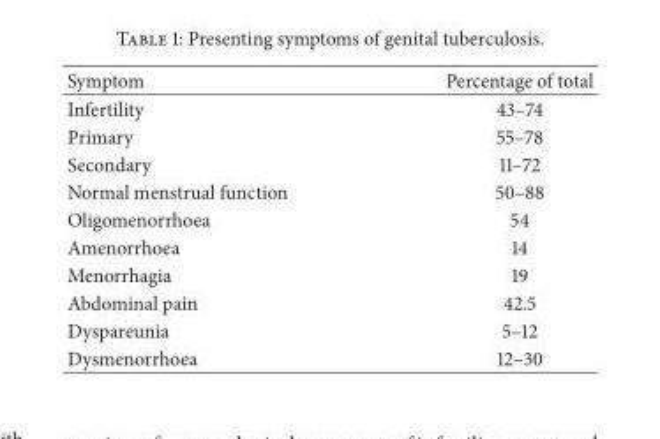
<table><thead><tr><td>Symptom</td><td>Percentage of total</td></tr></thead><tbody><tr><td>Infertility</td><td>43–74</td></tr><tr><td>Primary</td><td>55–78</td></tr><tr><td>Secondary</td><td>11–72</td></tr><tr><td>Normal menstrual function</td><td>50–88</td></tr><tr><td>Oligomenorrhoea</td><td>54</td></tr><tr><td>Amenorrhoea</td><td>14</td></tr><tr><td>Menorrhagia</td><td>19</td></tr><tr><td>Abdominal pain</td><td>42.5</td></tr><tr><td>Dyspareunia</td><td>5–12</td></tr><tr><td>Dysmenorrhoea</td><td>12–30</td></tr></tbody></table>